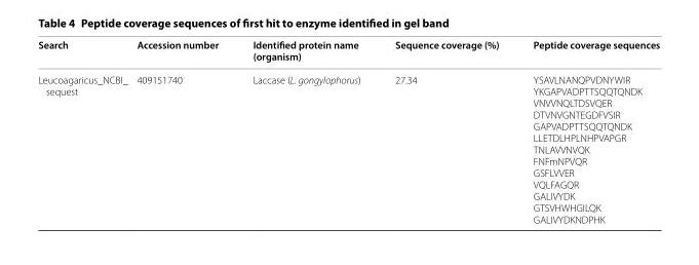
<table><thead><tr><td>Search</td><td>Accession number</td><td>Identified protein name (organism)</td><td>Sequence coverage (%)</td><td>Peptide coverage sequences</td></tr></thead><tbody><tr><td>Leucoagaricus_NCBI_ sequest</td><td>409151740</td><td>Laccase (L. gongylophorus)</td><td>27.34</td><td>YSAVLNANQPVDNYWIR YKGAPVADPTTSQQTQNDK VNVVNQLTDSVQER DTVNVGNTEGDFVSIR GAPVADPTTSQQTQNDK LLETDLHPLNHPVAPGR TNLAVVNVQK FNFmNPVQR GSFLVVER VQLFAGQR GALIVYDK GTSVHWHGILQK GALIVYDKNDPHK</td></tr></tbody></table>